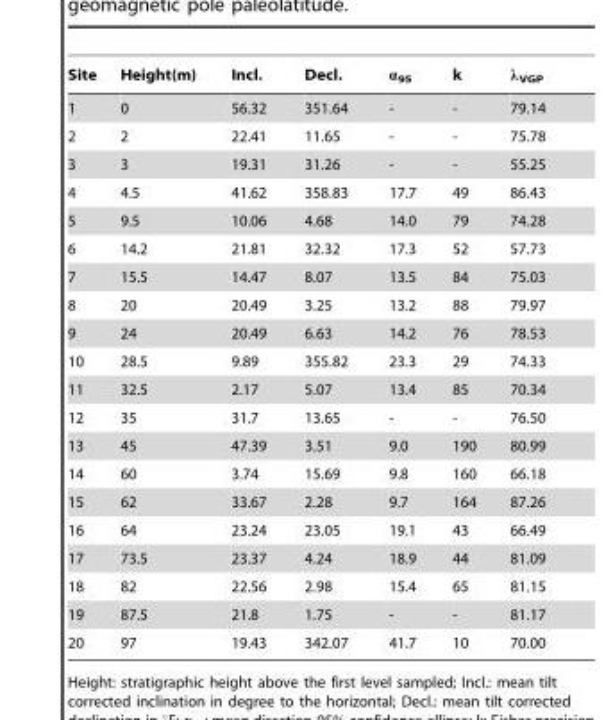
<table><thead><tr><td>Site</td><td>Height(m)</td><td>Incl.</td><td>Decl.</td><td>α<sub>95</sub></td><td>k</td><td>λ<sub>VGP</sub></td></tr></thead><tbody><tr><td>1</td><td>0</td><td>56.32</td><td>351.64</td><td>-</td><td>-</td><td>79.14</td></tr><tr><td>2</td><td>2</td><td>22.41</td><td>11.65</td><td>-</td><td>-</td><td>75.78</td></tr><tr><td>3</td><td>3</td><td>19.31</td><td>31.26</td><td>-</td><td>-</td><td>55.25</td></tr><tr><td>4</td><td>4.5</td><td>41.62</td><td>358.83</td><td>17.7</td><td>49</td><td>86.43</td></tr><tr><td>5</td><td>9.5</td><td>10.06</td><td>4.68</td><td>14.0</td><td>79</td><td>74.28</td></tr><tr><td>6</td><td>14.2</td><td>21.81</td><td>32.32</td><td>17.3</td><td>52</td><td>57.73</td></tr><tr><td>7</td><td>15.5</td><td>14.47</td><td>8.07</td><td>13.5</td><td>84</td><td>75.03</td></tr><tr><td>8</td><td>20</td><td>20.49</td><td>3.25</td><td>13.2</td><td>88</td><td>79.97</td></tr><tr><td>9</td><td>24</td><td>20.49</td><td>6.63</td><td>14.2</td><td>76</td><td>78.53</td></tr><tr><td>10</td><td>28.5</td><td>9.89</td><td>355.82</td><td>23.3</td><td>29</td><td>74.33</td></tr><tr><td>11</td><td>32.5</td><td>2.17</td><td>5.07</td><td>13.4</td><td>85</td><td>70.34</td></tr><tr><td>12</td><td>35</td><td>31.7</td><td>13.65</td><td>-</td><td>-</td><td>76.50</td></tr><tr><td>13</td><td>45</td><td>47.39</td><td>3.51</td><td>9.0</td><td>190</td><td>80.99</td></tr><tr><td>14</td><td>60</td><td>3.74</td><td>15.69</td><td>9.8</td><td>160</td><td>66.18</td></tr><tr><td>15</td><td>62</td><td>33.67</td><td>2.28</td><td>9.7</td><td>164</td><td>87.26</td></tr><tr><td>16</td><td>64</td><td>23.24</td><td>23.05</td><td>19.1</td><td>43</td><td>66.49</td></tr><tr><td>17</td><td>73.5</td><td>23.37</td><td>4.24</td><td>18.9</td><td>44</td><td>81.09</td></tr><tr><td>18</td><td>82</td><td>22.56</td><td>2.98</td><td>15.4</td><td>65</td><td>81.15</td></tr><tr><td>19</td><td>87.5</td><td>21.8</td><td>1.75</td><td>-</td><td>-</td><td>81.17</td></tr><tr><td>20</td><td>97</td><td>19.43</td><td>342.07</td><td>41.7</td><td>10</td><td>70.00</td></tr></tbody></table>